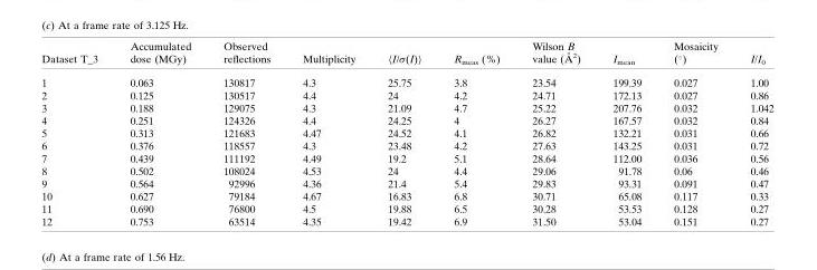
<table><thead><tr><td>Dataset T_3</td><td>Accumulated dose (MGy)</td><td>Observed reflections</td><td>Multiplicity</td><td>〈I/σ(I)〉</td><td>R<sub>meas</sub> (%)</td><td>Wilson B value (A˚ 2)</td><td>I<sub>mean</sub></td><td>Mosaicity (°)</td><td>I/I<sub>0</sub></td></tr></thead><tbody><tr><td>1</td><td>0.063</td><td>130817</td><td>4.3</td><td>25.75</td><td>3.8</td><td>23.54</td><td>199.39</td><td>0.027</td><td>1.00</td></tr><tr><td>2</td><td>0.125</td><td>130517</td><td>4.4</td><td>24</td><td>4.2</td><td>24.71</td><td>172.13</td><td>0.027</td><td>0.86</td></tr><tr><td>3</td><td>0.188</td><td>129075</td><td>4.3</td><td>21.09</td><td>4.7</td><td>25.22</td><td>207.76</td><td>0.032</td><td>1.042</td></tr><tr><td>4</td><td>0.251</td><td>124326</td><td>4.4</td><td>24.25</td><td>4</td><td>26.27</td><td>167.57</td><td>0.032</td><td>0.84</td></tr><tr><td>5</td><td>0.313</td><td>121683</td><td>4.47</td><td>24.52</td><td>4.1</td><td>26.82</td><td>132.21</td><td>0.031</td><td>0.66</td></tr><tr><td>6</td><td>0.376</td><td>118557</td><td>4.3</td><td>23.48</td><td>4.2</td><td>27.63</td><td>143.25</td><td>0.031</td><td>0.72</td></tr><tr><td>7</td><td>0.439</td><td>111192</td><td>4.49</td><td>19.2</td><td>5.1</td><td>28.64</td><td>112.00</td><td>0.036</td><td>0.56</td></tr><tr><td>8</td><td>0.502</td><td>108024</td><td>4.53</td><td>24</td><td>4.4</td><td>29.06</td><td>91.78</td><td>0.06</td><td>0.46</td></tr><tr><td>9</td><td>0.564</td><td>92996</td><td>4.36</td><td>21.4</td><td>5.4</td><td>29.83</td><td>93.31</td><td>0.091</td><td>0.47</td></tr><tr><td>10</td><td>0.627</td><td>79184</td><td>4.67</td><td>16.83</td><td>6.8</td><td>30.71</td><td>65.08</td><td>0.117</td><td>0.33</td></tr><tr><td>11</td><td>0.690</td><td>76800</td><td>4.5</td><td>19.88</td><td>6.5</td><td>30.28</td><td>53.53</td><td>0.128</td><td>0.27</td></tr><tr><td>12</td><td>0.753</td><td>63514</td><td>4.35</td><td>19.42</td><td>6.9</td><td>31.50</td><td>53.04</td><td>0.151</td><td>0.27</td></tr></tbody></table>